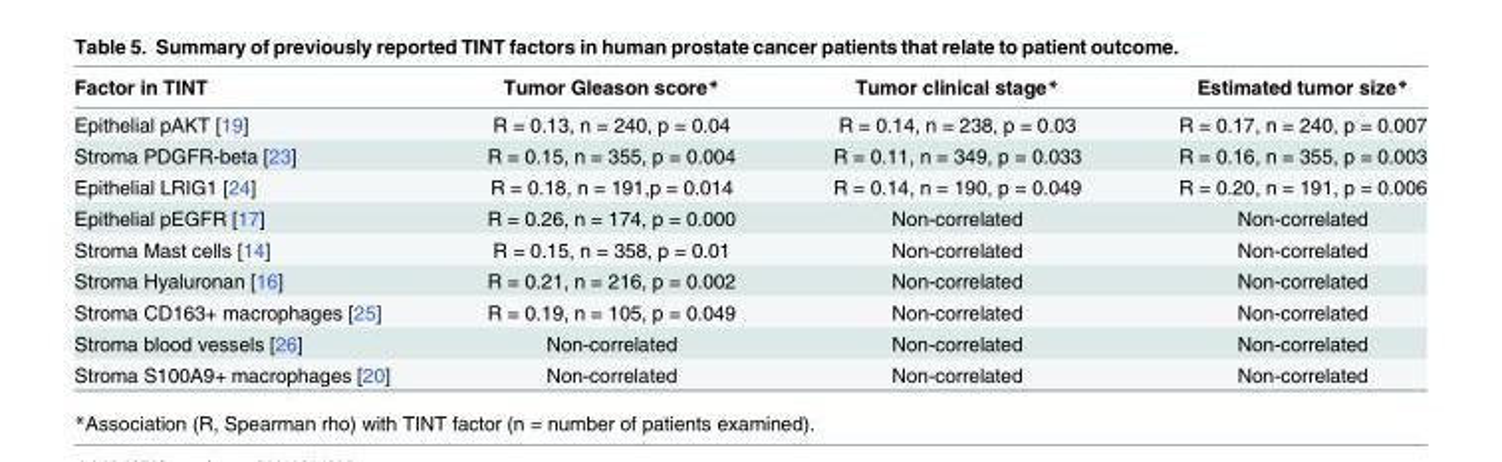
<table><thead><tr><td>Factor in TINT</td><td>Tumor Gleason score*</td><td>Tumor clinical stage*</td><td>Estimated tumor size*</td></tr></thead><tbody><tr><td>Epithelial pAKT [19]</td><td>R = 0.13, n = 240, p = 0.04</td><td>R = 0.14, n = 238, p = 0.03</td><td>R = 0.17, n = 240, p = 0.007</td></tr><tr><td>Stroma PDGFR-beta [23]</td><td>R = 0.15, n = 355, p = 0.004</td><td>R = 0.11, n = 349, p = 0.033</td><td>R = 0.16, n = 355, p = 0.003</td></tr><tr><td>Epithelial LRIG1 [24]</td><td>R = 0.18, n = 191,p = 0.014</td><td>R = 0.14, n = 190, p = 0.049</td><td>R = 0.20, n = 191, p = 0.006</td></tr><tr><td>Epithelial pEGFR [17]</td><td>R = 0.26, n = 174, p = 0.000</td><td>Non-correlated</td><td>Non-correlated</td></tr><tr><td>Stroma Mast cells [14]</td><td>R = 0.15, n = 358, p = 0.01</td><td>Non-correlated</td><td>Non-correlated</td></tr><tr><td>Stroma Hyaluronan [16]</td><td>R = 0.21, n = 216, p = 0.002</td><td>Non-correlated</td><td>Non-correlated</td></tr><tr><td>Stroma CD163+ macrophages [25]</td><td>R = 0.19, n = 105, p = 0.049</td><td>Non-correlated</td><td>Non-correlated</td></tr><tr><td>Stroma blood vessels [26]</td><td>Non-correlated</td><td>Non-correlated</td><td>Non-correlated</td></tr><tr><td>Stroma S100A9+ macrophages [20]</td><td>Non-correlated</td><td>Non-correlated</td><td>Non-correlated</td></tr></tbody></table>